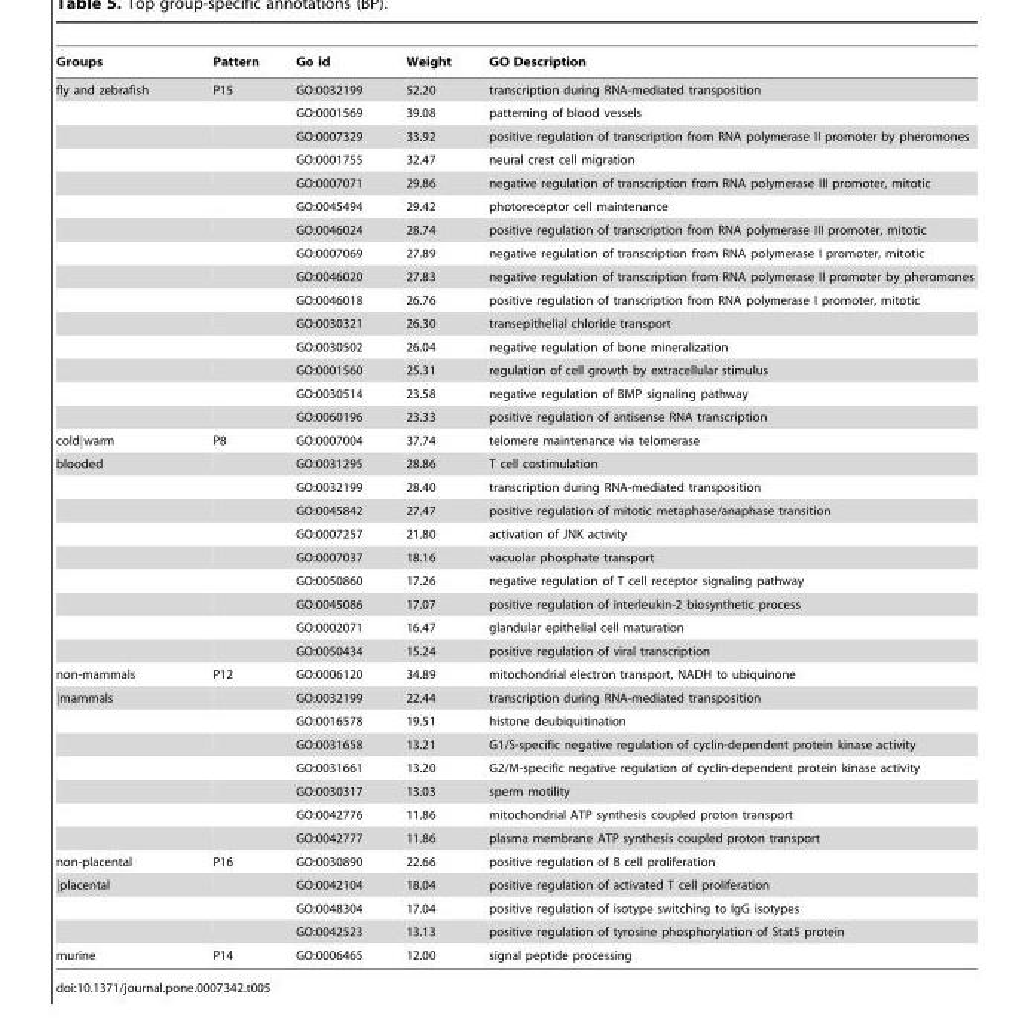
<table><thead><tr><td>Groups</td><td>Pattern</td><td>Go id</td><td>Weight</td><td>GO Description</td></tr></thead><tbody><tr><td rowspan="15">fly and zebrafish</td><td>P15</td><td>GO:0032199</td><td>52.20</td><td>transcription during RNA-mediated transposition</td></tr><tr><td></td><td>GO:0001569</td><td>39.08</td><td>patterning of blood vessels</td></tr><tr><td></td><td>GO:0007329</td><td>33.92</td><td>positive regulation of transcription from RNA polymerase II promoter by pheromones</td></tr><tr><td></td><td>GO:0001755</td><td>32.47</td><td>neural crest cell migration</td></tr><tr><td></td><td>GO:0007071</td><td>29.86</td><td>negative regulation of transcription from RNA polymerase III promoter, mitotic</td></tr><tr><td></td><td>GO:0045494</td><td>29.42</td><td>photoreceptor cell maintenance</td></tr><tr><td></td><td>GO:0046024</td><td>28.74</td><td>positive regulation of transcription from RNA polymerase III promoter, mitotic</td></tr><tr><td></td><td>GO:0007069</td><td>27.89</td><td>negative regulation of transcription from RNA polymerase I promoter, mitotic</td></tr><tr><td></td><td>GO:0046020</td><td>27.83</td><td>negative regulation of transcription from RNA polymerase II promoter by pheromones</td></tr><tr><td></td><td>GO:0046018</td><td>26.76</td><td>positive regulation of transcription from RNA polymerase I promoter, mitotic</td></tr><tr><td></td><td>GO:0030321</td><td>26.30</td><td>transepithelial chloride transport</td></tr><tr><td></td><td>GO:0030502</td><td>26.04</td><td>negative regulation of bone mineralization</td></tr><tr><td></td><td>GO:0001560</td><td>25.31</td><td>regulation of cell growth by extracellular stimulus</td></tr><tr><td></td><td>GO:0030514</td><td>23.58</td><td>negative regulation of BMP signaling pathway</td></tr><tr><td></td><td>GO:0060196</td><td>23.33</td><td>positive regulation of antisense RNA transcription</td></tr><tr><td>coldjwarm</td><td>P8</td><td>GO:0007004</td><td>37.74</td><td>telomere maintenance via telomerase</td></tr><tr><td rowspan="9">blooded</td><td></td><td>GO:0031295</td><td>28.86</td><td>T cell costimulation</td></tr><tr><td></td><td>GO:0032199</td><td>28.40</td><td>transcription during RNA-mediated transposition</td></tr><tr><td></td><td>GO:0045842</td><td>27.47</td><td>positive regulation of mitotic metaphase/anaphase transition</td></tr><tr><td></td><td>GO:0007257</td><td>21.80</td><td>activation of JNK activity</td></tr><tr><td></td><td>GO:0007037</td><td>18.16</td><td>vacuolar phosphate transport</td></tr><tr><td></td><td>GO:0050860</td><td>17.26</td><td>negative regulation of T cell receptor signaling pathway</td></tr><tr><td></td><td>GO:0045086</td><td>17.07</td><td>positive regulation of interleukin-2 biosynthetic process</td></tr><tr><td></td><td>GO:0002071</td><td>16.47</td><td>glandular epithelial cell maturation</td></tr><tr><td></td><td>GO:0050434</td><td>15.24</td><td>positive regulation of viral transcription</td></tr><tr><td>non-mammals</td><td>P12</td><td>GO:0006120</td><td>34.89</td><td>mitochondrial electron transport, NADH to ubiquinone</td></tr><tr><td rowspan="7">jmammals</td><td></td><td>GO:0032199</td><td>22.44</td><td>transcription during RNA-mediated transposition</td></tr><tr><td></td><td>GO:0016578</td><td>19.51</td><td>histone deubiquitination</td></tr><tr><td></td><td>GO:0031658</td><td>13.21</td><td>G1/S-specific negative regulation of cyclin-dependent protein kinase activity</td></tr><tr><td></td><td>GO:0031661</td><td>13.20</td><td>G2/M-specific negative regulation of cyclin-dependent protein kinase activity</td></tr><tr><td></td><td>GO:0030317</td><td>13.03</td><td>sperm motility</td></tr><tr><td></td><td>GO:0042776</td><td>11.86</td><td>mitochondrial ATP synthesis coupled proton transport</td></tr><tr><td></td><td>GO:0042777</td><td>11.86</td><td>plasma membrane ATP synthesis coupled proton transport</td></tr><tr><td>non-placental</td><td>P16</td><td>GO:0030890</td><td>22.66</td><td>positive regulation of B cell proliferation</td></tr><tr><td rowspan="3">jplacental</td><td></td><td>GO:0042104</td><td>18.04</td><td>positive regulation of activated T cell proliferation</td></tr><tr><td></td><td>GO:0048304</td><td>17.04</td><td>positive regulation of isotype switching to IgG isotypes</td></tr><tr><td></td><td>GO:0042523</td><td>13.13</td><td>positive regulation of tyrosine phosphorylation of Stat5 protein</td></tr><tr><td>murine</td><td>P14</td><td>GO:0006465</td><td>12.00</td><td>signal peptide processing</td></tr></tbody></table>